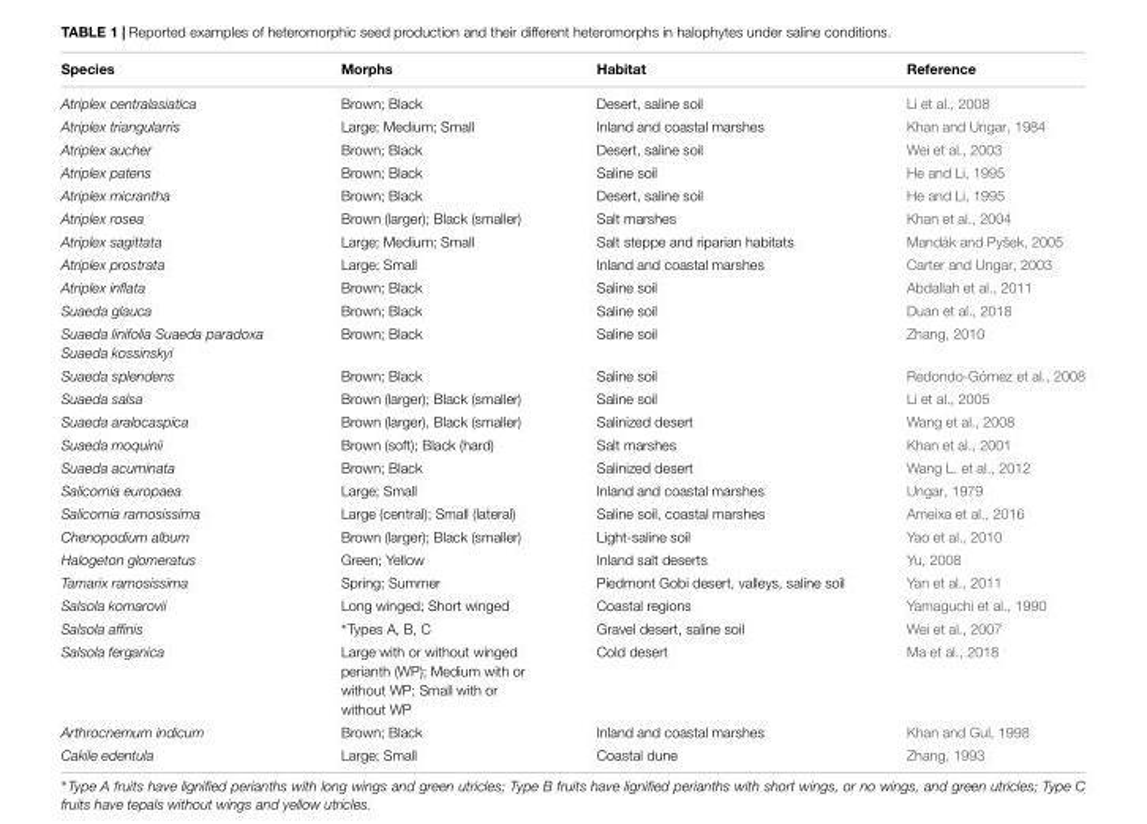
<table><thead><tr><td>Species</td><td>Morphs</td><td>Habitat</td><td>Reference</td></tr></thead><tbody><tr><td>Atriplex centralasiatica</td><td>Brown; Black</td><td>Desert, saline soil</td><td>Li et al., 2008</td></tr><tr><td>Atriplex triangularris</td><td>Large; Medium; Small</td><td>Inland and coastal marshes</td><td>Khan and Ungar, 1984</td></tr><tr><td>Atriplex aucher</td><td>Brown; Black</td><td>Desert, saline soil</td><td>Wei et al., 2003</td></tr><tr><td>Atriplex patens</td><td>Brown; Black</td><td>Saline soil</td><td>He and Li, 1995</td></tr><tr><td>Atriplex micrantha</td><td>Brown; Black</td><td>Desert, saline soil</td><td>He and Li, 1995</td></tr><tr><td>Atriplex rosea</td><td>Brown (larger); Black (smaller)</td><td>Salt marshes</td><td>Khan et al., 2004</td></tr><tr><td>Atriplex sagittata</td><td>Large; Medium; Small</td><td>Salt steppe and riparian habitats</td><td>Mandák and Pyšek, 2005</td></tr><tr><td>Atriplex prostrata</td><td>Large; Small</td><td>Inland and coastal marshes</td><td>Carter and Ungar, 2003</td></tr><tr><td>Atriplex inflata</td><td>Brown; Black</td><td>Saline soil</td><td>Abdallah et al., 2011</td></tr><tr><td>Suaeda glauca</td><td>Brown; Black</td><td>Saline soil</td><td>Duan et al., 2018</td></tr><tr><td>Suaeda linifolia Suaeda paradoxa Suaeda kossinskyi</td><td>Brown; Black</td><td>Saline soil</td><td>Zhang, 2010</td></tr><tr><td>Suaeda splendens</td><td>Brown; Black</td><td>Saline soil</td><td>Redondo-Gómez et al., 2008</td></tr><tr><td>Suaeda salsa</td><td>Brown (larger); Black (smaller)</td><td>Saline soil</td><td>Li et al., 2005</td></tr><tr><td>Suaeda aralocaspica</td><td>Brown (larger), Black (smaller)</td><td>Salinized desert</td><td>Wang et al., 2008</td></tr><tr><td>Suaeda moquinii</td><td>Brown (soft); Black (hard)</td><td>Salt marshes</td><td>Khan et al., 2001</td></tr><tr><td>Suaeda acuminata</td><td>Brown; Black</td><td>Salinized desert</td><td>Wang L. et al., 2012</td></tr><tr><td>Salicornia europaea</td><td>Large; Small</td><td>Inland and coastal marshes</td><td>Ungar, 1979</td></tr><tr><td>Salicornia ramosissima</td><td>Large (central); Small (lateral)</td><td>Saline soil, coastal marshes</td><td>Ameixa et al., 2016</td></tr><tr><td>Chenopodium album</td><td>Brown (larger); Black (smaller)</td><td>Light-saline soil</td><td>Yao et al., 2010</td></tr><tr><td>Halogeton glomeratus</td><td>Green; Yellow</td><td>Inland salt deserts</td><td>Yu, 2008</td></tr><tr><td>Tamarix ramosissima</td><td>Spring; Summer</td><td>Piedmont Gobi desert, valleys, saline soil</td><td>Yan et al., 2011</td></tr><tr><td>Salsola komarovii</td><td>Long winged; Short winged</td><td>Coastal regions</td><td>Yamaguchi et al., 1990</td></tr><tr><td>Salsola affinis</td><td>∗Types A, B, C</td><td>Gravel desert, saline soil</td><td>Wei et al., 2007</td></tr><tr><td>Salsola ferganica</td><td>Large with or without winged perianth (WP); Medium with or without WP; Small with or without WP</td><td>Cold desert</td><td>Ma et al., 2018</td></tr><tr><td>Arthrocnemum indicum</td><td>Brown; Black</td><td>Inland and coastal marshes</td><td>Khan and Gul, 1998</td></tr><tr><td>Cakile edentula</td><td>Large; Small</td><td>Coastal dune</td><td>Zhang, 1993</td></tr></tbody></table>